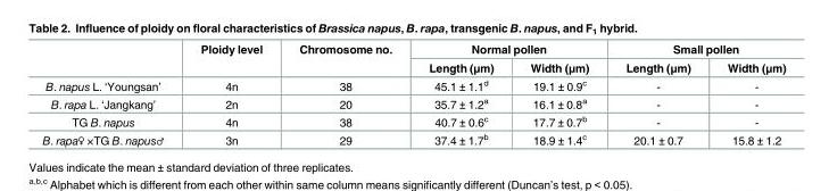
<table><thead><tr><td rowspan="2"></td><td rowspan="2">Ploidy level</td><td rowspan="2">Chromosome no.</td><td colspan="2">Normal pollen</td><td colspan="2">Small pollen</td></tr><tr><td>Length (μm)</td><td>Width (μm)</td><td>Length (μm)</td><td>Width (μm)</td></tr></thead><tbody><tr><td>B. napus L. ‘Youngsan’</td><td>4n</td><td>38</td><td>45.1 ± 1.1<sup>d</sup></td><td>19.1 ± 0.9<sup>c</sup></td><td>-</td><td>-</td></tr><tr><td>B. rapa L. ‘Jangkang’</td><td>2n</td><td>20</td><td>35.7 ± 1.2<sup>a</sup></td><td>16.1 ± 0.8<sup>a</sup></td><td>-</td><td>-</td></tr><tr><td>TG B. napus</td><td>4n</td><td>38</td><td>40.7 ± 0.6<sup>c</sup></td><td>17.7 ± 0.7<sup>b</sup></td><td>-</td><td>-</td></tr><tr><td>B. rapa♀ ×TG B. napus♂</td><td>3n</td><td>29</td><td>37.4 ± 1.7<sup>b</sup></td><td>18.9 ± 1.4<sup>c</sup></td><td>20.1 ± 0.7</td><td>15.8 ± 1.2</td></tr></tbody></table>